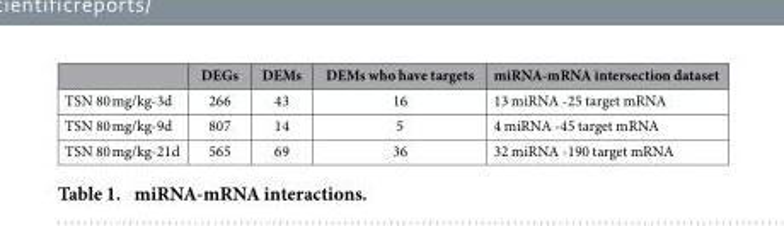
<table><thead><tr><td></td><td>DEGs</td><td>DEMs</td><td>DEMs who have targets</td><td>miRNA-mRNA intersection dataset</td></tr></thead><tbody><tr><td>TSN 80 mg/kg-3d</td><td>266</td><td>43</td><td>16</td><td>13 miRNA -25 target mRNA</td></tr><tr><td>TSN 80 mg/kg-9d</td><td>807</td><td>14</td><td>5</td><td>4 miRNA -45 target mRNA</td></tr><tr><td>TSN 80 mg/kg-21d</td><td>565</td><td>69</td><td>36</td><td>32 miRNA -190 target mRNA</td></tr></tbody></table>